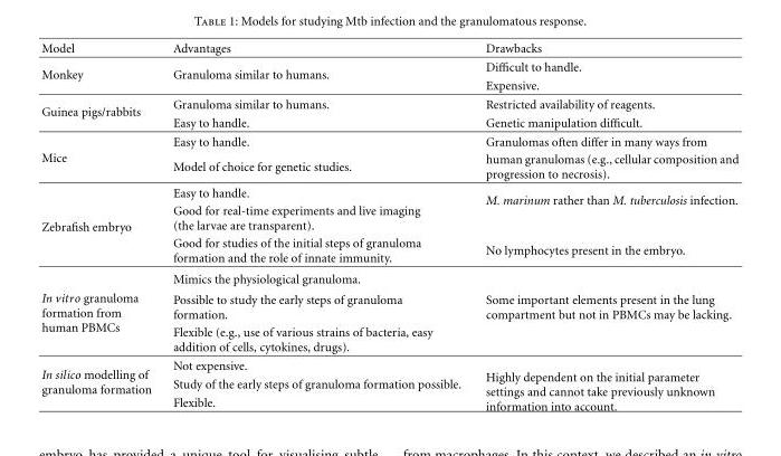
<table><thead><tr><td>Model</td><td>Advantages</td><td>Drawbacks</td></tr></thead><tbody><tr><td rowspan="2">Monkey</td><td rowspan="2">Granuloma similar to humans.</td><td>Difficult to handle.</td></tr><tr><td>Expensive.</td></tr><tr><td rowspan="2">Guinea pigs/rabbits</td><td>Granuloma similar to humans.</td><td>Restricted availability of reagents.</td></tr><tr><td>Easy to handle.</td><td>Genetic manipulation difficult.</td></tr><tr><td rowspan="2">Mice</td><td>Easy to handle.</td><td>Granulomas often differ in many ways from</td></tr><tr><td>Model of choice for genetic studies.</td><td>human granulomas (e.g., cellular composition and progression to necrosis).</td></tr><tr><td rowspan="3">Zebrafish embryo</td><td>Easy to handle.</td><td rowspan="2">M. marinum rather than M. tuberculosis infection.</td></tr><tr><td>Good for real-time experiments and live imaging (the larvae are transparent).</td></tr><tr><td>Good for studies of the initial steps of granuloma formation and the role of innate immunity.</td><td>No lymphocytes present in the embryo.</td></tr><tr><td rowspan="3">In vitro granuloma formation from human PBMCs</td><td>Mimics the physiological granuloma.</td><td rowspan="2">Some important elements present in the lung compartment but not in PBMCs may be lacking.</td></tr><tr><td>Possible to study the early steps of granuloma formation.</td></tr><tr><td>Flexible (e.g., use of various strains of bacteria, easy addition of cells, cytokines, drugs).</td><td></td></tr><tr><td rowspan="3">In silico modelling of granuloma formation</td><td>Not expensive.</td><td rowspan="3">Highly dependent on the initial parameter settings and cannot take previously unknown information into account.</td></tr><tr><td>Study of the early steps of granuloma formation possible.</td></tr><tr><td>Flexible.</td></tr></tbody></table>